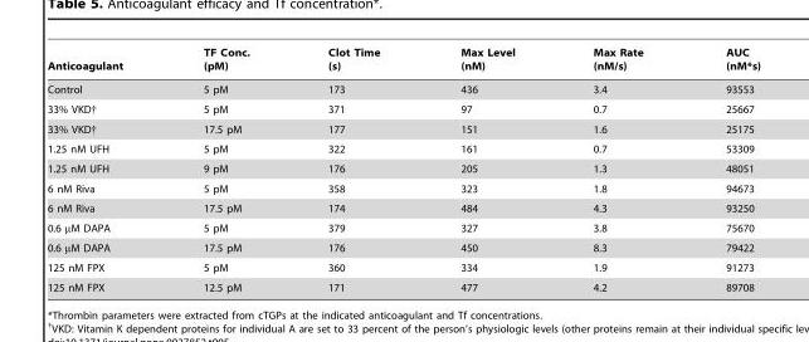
<table><thead><tr><td>Anticoagulant</td><td>TF Conc. (pM)</td><td>Clot Time (s)</td><td>Max Level (nM)</td><td>Max Rate (nM/s)</td><td>AUC (nM*s)</td></tr></thead><tbody><tr><td>Control</td><td>5 pM</td><td>173</td><td>436</td><td>3.4</td><td>93553</td></tr><tr><td>33% VKD†</td><td>5 pM</td><td>371</td><td>97</td><td>0.7</td><td>25667</td></tr><tr><td>33% VKD†</td><td>17.5 pM</td><td>177</td><td>151</td><td>1.6</td><td>25175</td></tr><tr><td>1.25 nM UFH</td><td>5 pM</td><td>322</td><td>161</td><td>0.7</td><td>53309</td></tr><tr><td>1.25 nM UFH</td><td>9 pM</td><td>176</td><td>205</td><td>1.3</td><td>48051</td></tr><tr><td>6 nM Riva</td><td>5 pM</td><td>358</td><td>323</td><td>1.8</td><td>94673</td></tr><tr><td>6 nM Riva</td><td>17.5 pM</td><td>174</td><td>484</td><td>4.3</td><td>93250</td></tr><tr><td>0.6 µM DAPA</td><td>5 pM</td><td>379</td><td>327</td><td>3.8</td><td>75670</td></tr><tr><td>0.6 µM DAPA</td><td>17.5 pM</td><td>176</td><td>450</td><td>8.3</td><td>79422</td></tr><tr><td>125 nM FPX</td><td>5 pM</td><td>360</td><td>334</td><td>1.9</td><td>91273</td></tr><tr><td>125 nM FPX</td><td>12.5 pM</td><td>171</td><td>477</td><td>4.2</td><td>89708</td></tr></tbody></table>